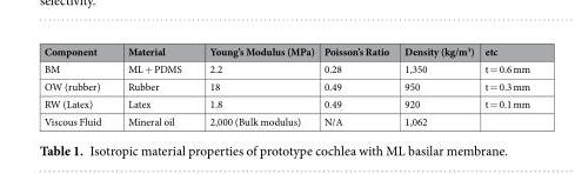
<table><thead><tr><td>Component</td><td>Material</td><td>Young’s Modulus (MPa)</td><td>Poisson’s Ratio</td><td>Density (kg/m<sup>3</sup>)</td><td>etc</td></tr></thead><tbody><tr><td>BM</td><td>ML + PDMS</td><td>2.2</td><td>0.28</td><td>1,350</td><td>t = 0.6 mm</td></tr><tr><td>OW (rubber)</td><td>Rubber</td><td>18</td><td>0.49</td><td>950</td><td>t = 0.3 mm</td></tr><tr><td>RW (Latex)</td><td>Latex</td><td>1.8</td><td>0.49</td><td>920</td><td>t = 0.1 mm</td></tr><tr><td>Viscous Fluid</td><td>Mineral oil</td><td>2,000 (Bulk modulus)</td><td>N/A</td><td>1,062</td><td></td></tr></tbody></table>